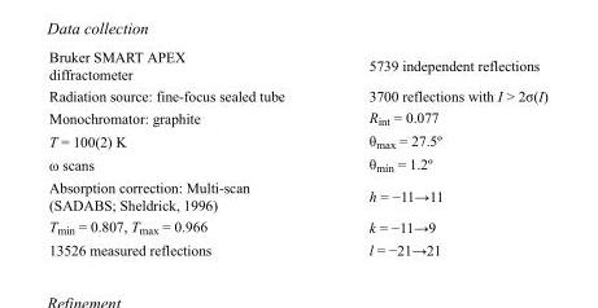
<table><tbody><tr><td>Bruker SMART APEX diffractometer</td><td>5739 independent reflections</td></tr><tr><td>Radiation source: fine-focus sealed tube</td><td>3700 reflections with I &gt; 2σ(I)</td></tr><tr><td>Monochromator: graphite</td><td>R<sub>int</sub> = 0.077</td></tr><tr><td>T = 100(2) K</td><td>θ<sub>max</sub> = 27.5º</td></tr><tr><td>ω scans</td><td>θ<sub>min</sub> = 1.2º</td></tr><tr><td>Absorption correction: Multi-scan (SADABS; Sheldrick, 1996)</td><td>h = −11→11</td></tr><tr><td>T<sub>min</sub> = 0.807, T<sub>max</sub> = 0.966</td><td>k = −11→9</td></tr><tr><td>13526 measured reflections</td><td>l = −21→21</td></tr></tbody></table>